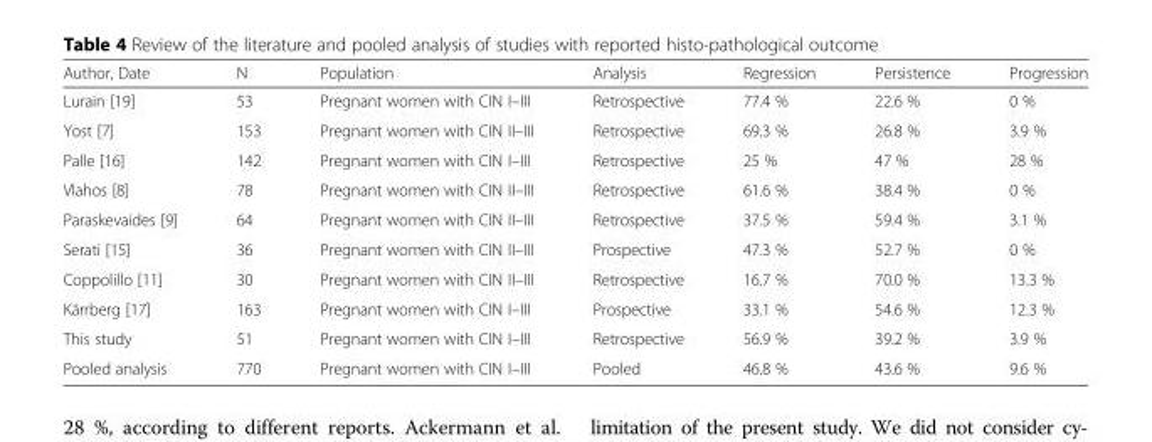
<table><thead><tr><td>Author, Date</td><td>N</td><td>Population</td><td>Analysis</td><td>Regression</td><td>Persistence</td><td>Progression</td></tr></thead><tbody><tr><td>Lurain [19]</td><td>53</td><td>Pregnant women with CIN I–III</td><td>Retrospective</td><td>77.4 %</td><td>22.6 %</td><td>0 %</td></tr><tr><td>Yost [7]</td><td>153</td><td>Pregnant women with CIN II–III</td><td>Retrospective</td><td>69.3 %</td><td>26.8 %</td><td>3.9 %</td></tr><tr><td>Palle [16]</td><td>142</td><td>Pregnant women with CIN I–III</td><td>Retrospective</td><td>25 %</td><td>47 %</td><td>28 %</td></tr><tr><td>Vlahos [8]</td><td>78</td><td>Pregnant women with CIN II–III</td><td>Retrospective</td><td>61.6 %</td><td>38.4 %</td><td>0 %</td></tr><tr><td>Paraskevaides [9]</td><td>64</td><td>Pregnant women with CIN II–III</td><td>Retrospective</td><td>37.5 %</td><td>59.4 %</td><td>3.1 %</td></tr><tr><td>Serati [15]</td><td>36</td><td>Pregnant women with CIN II–III</td><td>Prospective</td><td>47.3 %</td><td>52.7 %</td><td>0 %</td></tr><tr><td>Coppolillo [11]</td><td>30</td><td>Pregnant women with CIN II–III</td><td>Retrospective</td><td>16.7 %</td><td>70.0 %</td><td>13.3 %</td></tr><tr><td>Kärrberg [17]</td><td>163</td><td>Pregnant women with CIN I–III</td><td>Prospective</td><td>33.1 %</td><td>54.6 %</td><td>12.3 %</td></tr><tr><td>This study</td><td>51</td><td>Pregnant women with CIN I–III</td><td>Retrospective</td><td>56.9 %</td><td>39.2 %</td><td>3.9 %</td></tr><tr><td>Pooled analysis</td><td>770</td><td>Pregnant women with CIN I–III</td><td>Pooled</td><td>46.8 %</td><td>43.6 %</td><td>9.6 %</td></tr></tbody></table>